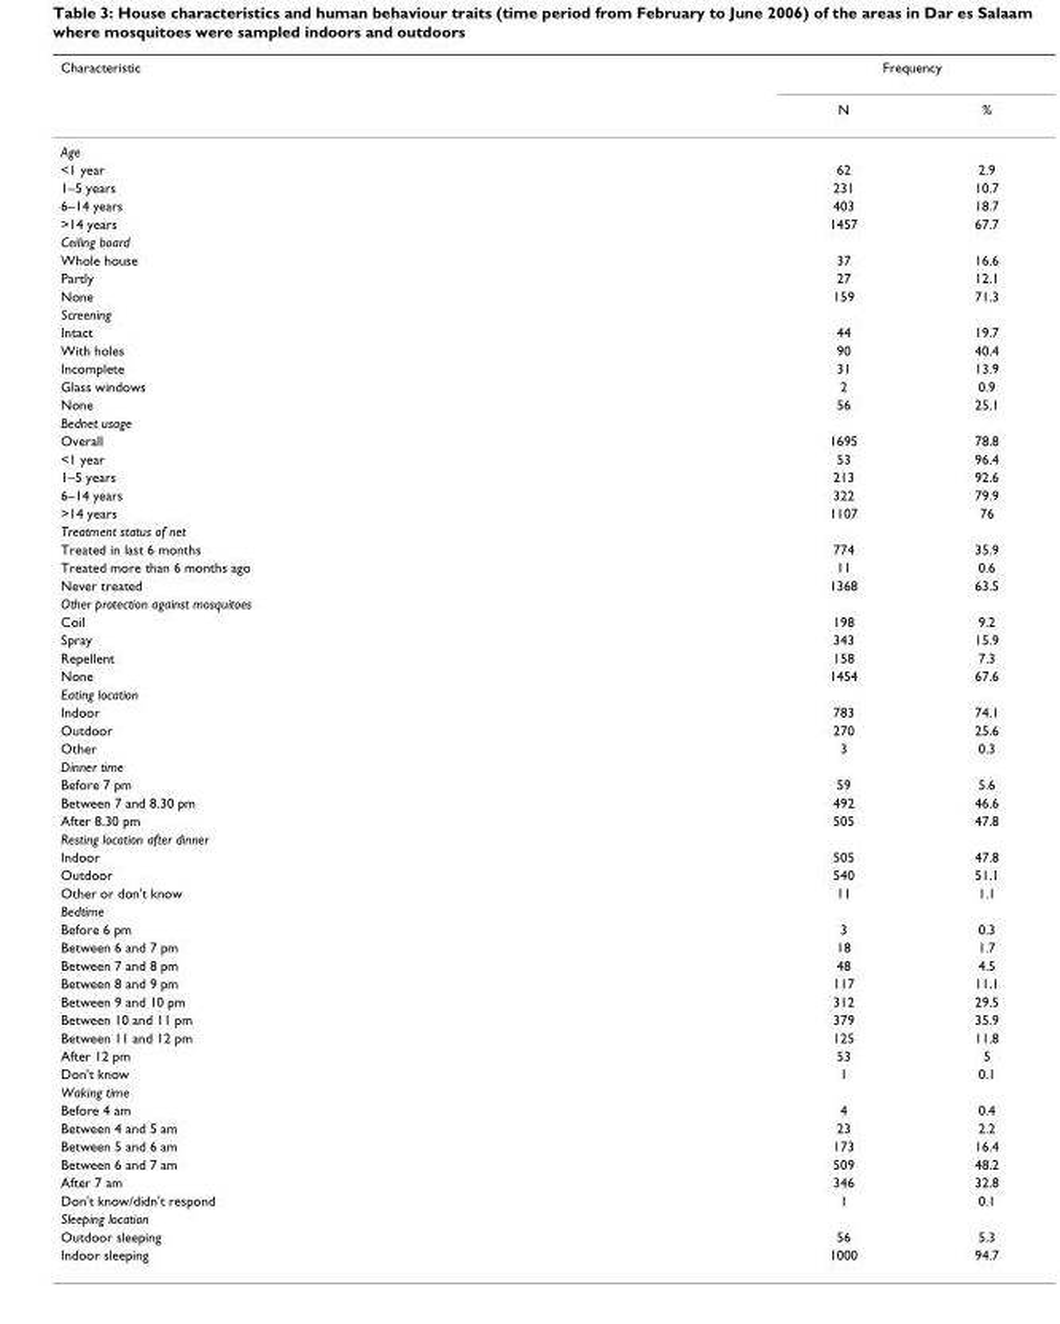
<table><thead><tr><td rowspan="2">Characteristic</td><td colspan="2">Frequency</td></tr><tr><td>N</td><td>%</td></tr></thead><tbody><tr><td colspan="3">Age</td></tr><tr><td>&lt;1 year</td><td>62</td><td>2.9</td></tr><tr><td>1–5 years</td><td>231</td><td>10.7</td></tr><tr><td>6–14 years</td><td>403</td><td>18.7</td></tr><tr><td>&gt;14 years</td><td>1457</td><td>67.7</td></tr><tr><td colspan="3">Ceiling board</td></tr><tr><td>Whole house</td><td>37</td><td>16.6</td></tr><tr><td>Partly</td><td>27</td><td>12.1</td></tr><tr><td>None</td><td>159</td><td>71.3</td></tr><tr><td colspan="3">Screening</td></tr><tr><td>Intact</td><td>44</td><td>19.7</td></tr><tr><td>With holes</td><td>90</td><td>40.4</td></tr><tr><td>Incomplete</td><td>31</td><td>13.9</td></tr><tr><td>Glass windows</td><td>2</td><td>0.9</td></tr><tr><td>None</td><td>56</td><td>25.1</td></tr><tr><td colspan="3">Bednet usage</td></tr><tr><td>Overall</td><td>1695</td><td>78.8</td></tr><tr><td>&lt;1 year</td><td>53</td><td>96.4</td></tr><tr><td>1–5 years</td><td>213</td><td>92.6</td></tr><tr><td>6–14 years</td><td>322</td><td>79.9</td></tr><tr><td>&gt;14 years</td><td>1107</td><td>76</td></tr><tr><td colspan="3">Treatment status of net</td></tr><tr><td>Treated in last 6 months</td><td>774</td><td>35.9</td></tr><tr><td>Treated more than 6 months ago</td><td>11</td><td>0.6</td></tr><tr><td>Never treated</td><td>1368</td><td>63.5</td></tr><tr><td colspan="3">Other protection against mosquitoes</td></tr><tr><td>Coil</td><td>198</td><td>9.2</td></tr><tr><td>Spray</td><td>343</td><td>15.9</td></tr><tr><td>Repellent</td><td>158</td><td>7.3</td></tr><tr><td>None</td><td>1454</td><td>67.6</td></tr><tr><td colspan="3">Eating location</td></tr><tr><td>Indoor</td><td>783</td><td>74.1</td></tr><tr><td>Outdoor</td><td>270</td><td>25.6</td></tr><tr><td>Other</td><td>3</td><td>0.3</td></tr><tr><td colspan="3">Dinner time</td></tr><tr><td>Before 7 pm</td><td>59</td><td>5.6</td></tr><tr><td>Between 7 and 8.30 pm</td><td>492</td><td>46.6</td></tr><tr><td>After 8.30 pm</td><td>505</td><td>47.8</td></tr><tr><td colspan="3">Resting location after dinner</td></tr><tr><td>Indoor</td><td>505</td><td>47.8</td></tr><tr><td>Outdoor</td><td>540</td><td>51.1</td></tr><tr><td>Other or don&#x27;t know</td><td>11</td><td>1.1</td></tr><tr><td colspan="3">Bedtime</td></tr><tr><td>Before 6 pm</td><td>3</td><td>0.3</td></tr><tr><td>Between 6 and 7 pm</td><td>18</td><td>1.7</td></tr><tr><td>Between 7 and 8 pm</td><td>48</td><td>4.5</td></tr><tr><td>Between 8 and 9 pm</td><td>117</td><td>11.1</td></tr><tr><td>Between 9 and 10 pm</td><td>312</td><td>29.5</td></tr><tr><td>Between 10 and 11 pm</td><td>379</td><td>35.9</td></tr><tr><td>Between 11 and 12 pm</td><td>125</td><td>11.8</td></tr><tr><td>After 12 pm</td><td>53</td><td>5</td></tr><tr><td>Don&#x27;t know</td><td>1</td><td>0.1</td></tr><tr><td colspan="3">Waking time</td></tr><tr><td>Before 4 am</td><td>4</td><td>0.4</td></tr><tr><td>Between 4 and 5 am</td><td>23</td><td>2.2</td></tr><tr><td>Between 5 and 6 am</td><td>173</td><td>16.4</td></tr><tr><td>Between 6 and 7 am</td><td>509</td><td>48.2</td></tr><tr><td>After 7 am</td><td>346</td><td>32.8</td></tr><tr><td>Don&#x27;t know/didn&#x27;t respond</td><td>1</td><td>0.1</td></tr><tr><td colspan="3">Sleeping location</td></tr><tr><td>Outdoor sleeping</td><td>56</td><td>5.3</td></tr><tr><td>Indoor sleeping</td><td>1000</td><td>94.7</td></tr></tbody></table>